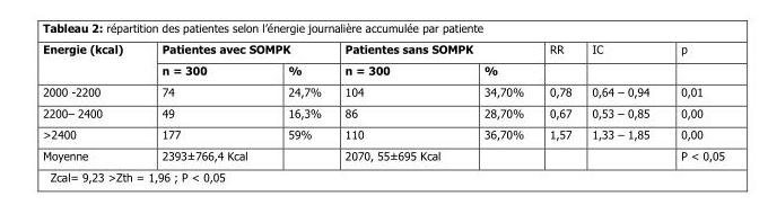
<table><thead><tr><td rowspan="2">Energie (kcal)</td><td colspan="2">Patientes avec SOMPK</td><td colspan="2">Patientes sans SOMPK</td><td rowspan="2">RR</td><td rowspan="2">IC</td><td rowspan="2">p</td></tr><tr><td>n = 300</td><td>%</td><td>n = 300</td><td>%</td></tr></thead><tbody><tr><td>2000 -2200</td><td>74</td><td>24,7%</td><td>104</td><td>34,70%</td><td>0,78</td><td>0,64 – 0,94</td><td>0,01</td></tr><tr><td>2200– 2400</td><td>49</td><td>16,3%</td><td>86</td><td>28,70%</td><td>0,67</td><td>0,53 – 0,85</td><td>0,00</td></tr><tr><td>&gt;2400</td><td>177</td><td>59%</td><td>110</td><td>36,70%</td><td>1,57</td><td>1,33 – 1,85</td><td>0,00</td></tr><tr><td>Moyenne</td><td>2393±766,4 Kcal</td><td></td><td>2070, 55±695 Kcal</td><td></td><td></td><td></td><td>P &lt; 0,05</td></tr></tbody></table>